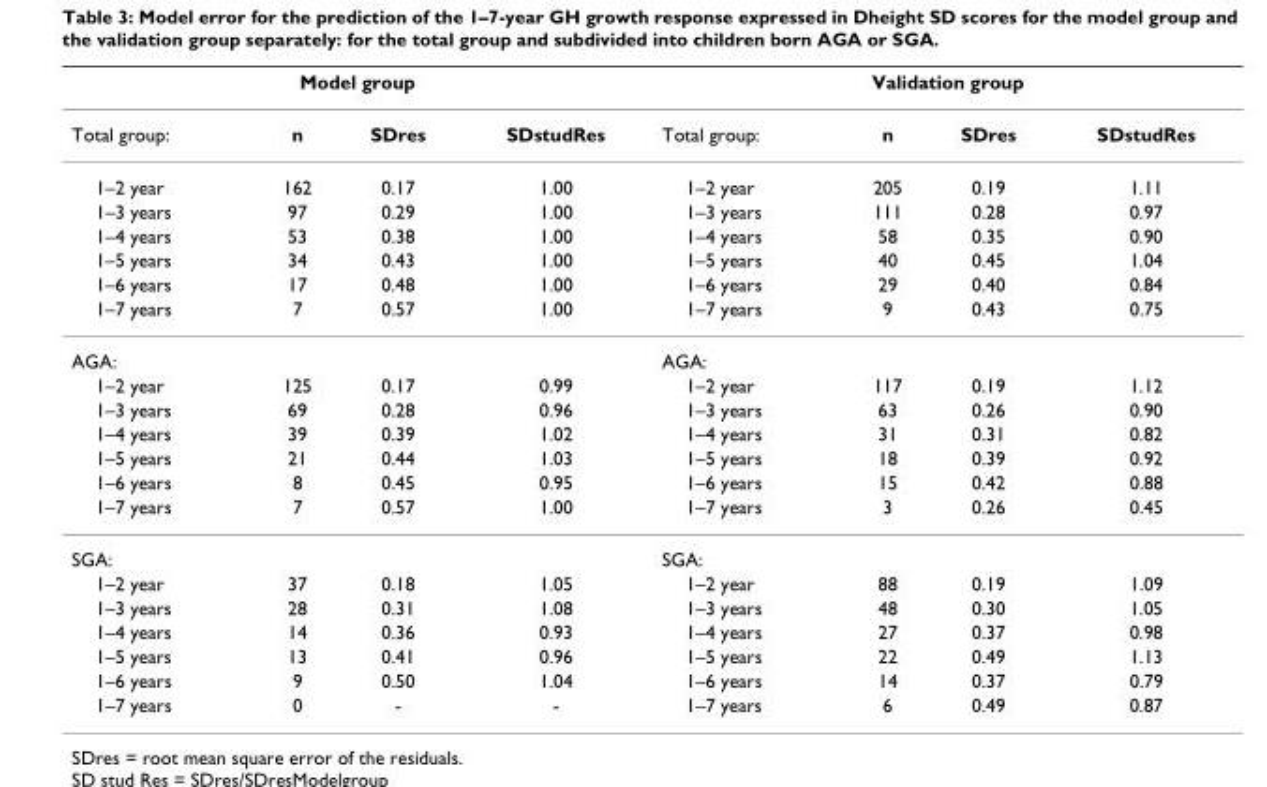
<table><thead><tr><td colspan="4">Model group</td><td colspan="4">Validation group</td></tr><tr><td>Total group:</td><td>n</td><td>SDres</td><td>SDstudRes</td><td>Total group:</td><td>n</td><td>SDres</td><td>SDstudRes</td></tr></thead><tbody><tr><td>1–2 year</td><td>162</td><td>0.17</td><td>1.00</td><td>1–2 year</td><td>205</td><td>0.19</td><td>1.11</td></tr><tr><td>1–3 years</td><td>97</td><td>0.29</td><td>1.00</td><td>1–3 years</td><td>111</td><td>0.28</td><td>0.97</td></tr><tr><td>1–4 years</td><td>53</td><td>0.38</td><td>1.00</td><td>1–4 years</td><td>58</td><td>0.35</td><td>0.90</td></tr><tr><td>1–5 years</td><td>34</td><td>0.43</td><td>1.00</td><td>1–5 years</td><td>40</td><td>0.45</td><td>1.04</td></tr><tr><td>1–6 years</td><td>17</td><td>0.48</td><td>1.00</td><td>1–6 years</td><td>29</td><td>0.40</td><td>0.84</td></tr><tr><td>1–7 years</td><td>7</td><td>0.57</td><td>1.00</td><td>1–7 years</td><td>9</td><td>0.43</td><td>0.75</td></tr><tr><td>AGA:</td><td></td><td></td><td></td><td>AGA:</td><td></td><td></td><td></td></tr><tr><td>1–2 year</td><td>125</td><td>0.17</td><td>0.99</td><td>1–2 year</td><td>117</td><td>0.19</td><td>1.12</td></tr><tr><td>1–3 years</td><td>69</td><td>0.28</td><td>0.96</td><td>1–3 years</td><td>63</td><td>0.26</td><td>0.90</td></tr><tr><td>1–4 years</td><td>39</td><td>0.39</td><td>1.02</td><td>1–4 years</td><td>31</td><td>0.31</td><td>0.82</td></tr><tr><td>1–5 years</td><td>21</td><td>0.44</td><td>1.03</td><td>1–5 years</td><td>18</td><td>0.39</td><td>0.92</td></tr><tr><td>1–6 years</td><td>8</td><td>0.45</td><td>0.95</td><td>1–6 years</td><td>15</td><td>0.42</td><td>0.88</td></tr><tr><td>1–7 years</td><td>7</td><td>0.57</td><td>1.00</td><td>1–7 years</td><td>3</td><td>0.26</td><td>0.45</td></tr><tr><td>SGA:</td><td></td><td></td><td></td><td>SGA:</td><td></td><td></td><td></td></tr><tr><td>1–2 year</td><td>37</td><td>0.18</td><td>1.05</td><td>1–2 year</td><td>88</td><td>0.19</td><td>1.09</td></tr><tr><td>1–3 years</td><td>28</td><td>0.31</td><td>1.08</td><td>1–3 years</td><td>48</td><td>0.30</td><td>1.05</td></tr><tr><td>1–4 years</td><td>14</td><td>0.36</td><td>0.93</td><td>1–4 years</td><td>27</td><td>0.37</td><td>0.98</td></tr><tr><td>1–5 years</td><td>13</td><td>0.41</td><td>0.96</td><td>1–5 years</td><td>22</td><td>0.49</td><td>1.13</td></tr><tr><td>1–6 years</td><td>9</td><td>0.50</td><td>1.04</td><td>1–6 years</td><td>14</td><td>0.37</td><td>0.79</td></tr><tr><td>1–7 years</td><td>0</td><td>-</td><td>-</td><td>1–7 years</td><td>6</td><td>0.49</td><td>0.87</td></tr></tbody></table>